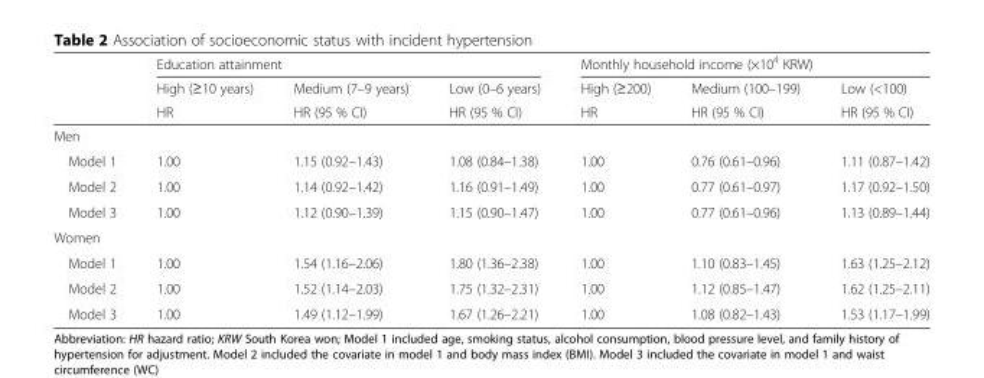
<table><thead><tr><td rowspan="3"></td><td colspan="3">Education attainment</td><td colspan="3">Monthly household income (×10<sup>4</sup> KRW)</td></tr><tr><td rowspan="2">High (≥10 years) HR</td><td rowspan="2">Medium (7–9 years) HR (95 % CI)</td><td rowspan="2">Low (0–6 years) HR (95 % CI)</td><td rowspan="2">High (≥200) HR</td><td rowspan="2">Medium (100–199) HR (95 % CI)</td><td rowspan="2">Low (&lt;100) HR (95 % CI)</td></tr><tr></tr></thead><tbody><tr><td colspan="7">Men</td></tr><tr><td>Model 1</td><td>1.00</td><td>1.15 (0.92–1.43)</td><td>1.08 (0.84–1.38)</td><td>1.00</td><td>0.76 (0.61–0.96)</td><td>1.11 (0.87–1.42)</td></tr><tr><td>Model 2</td><td>1.00</td><td>1.14 (0.92–1.42)</td><td>1.16 (0.91–1.49)</td><td>1.00</td><td>0.77 (0.61–0.97)</td><td>1.17 (0.92–1.50)</td></tr><tr><td>Model 3</td><td>1.00</td><td>1.12 (0.90–1.39)</td><td>1.15 (0.90–1.47)</td><td>1.00</td><td>0.77 (0.61–0.96)</td><td>1.13 (0.89–1.44)</td></tr><tr><td colspan="7">Women</td></tr><tr><td>Model 1</td><td>1.00</td><td>1.54 (1.16–2.06)</td><td>1.80 (1.36–2.38)</td><td>1.00</td><td>1.10 (0.83–1.45)</td><td>1.63 (1.25–2.12)</td></tr><tr><td>Model 2</td><td>1.00</td><td>1.52 (1.14–2.03)</td><td>1.75 (1.32–2.31)</td><td>1.00</td><td>1.12 (0.85–1.47)</td><td>1.62 (1.25–2.11)</td></tr><tr><td>Model 3</td><td>1.00</td><td>1.49 (1.12–1.99)</td><td>1.67 (1.26–2.21)</td><td>1.00</td><td>1.08 (0.82–1.43)</td><td>1.53 (1.17–1.99)</td></tr></tbody></table>